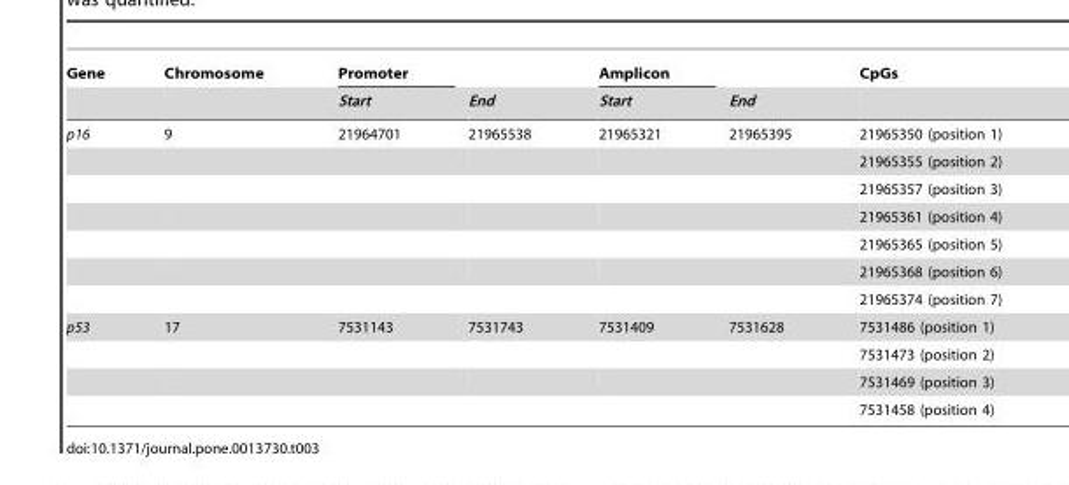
<table><thead><tr><td rowspan="2">Gene</td><td rowspan="2">Chromosome</td><td rowspan="2">Promoter Start</td><td rowspan="2">End</td><td rowspan="2">Amplicon Start</td><td rowspan="2">End</td><td rowspan="2">CpGs</td></tr><tr></tr></thead><tbody><tr><td rowspan="7">p16</td><td>9</td><td>21964701</td><td>21965538</td><td>21965321</td><td>21965395</td><td>21965350 (position 1)</td></tr><tr><td></td><td></td><td></td><td></td><td></td><td>21965355 (position 2)</td></tr><tr><td></td><td></td><td></td><td></td><td></td><td>21965357 (position 3)</td></tr><tr><td></td><td></td><td></td><td></td><td></td><td>21965361 (position 4)</td></tr><tr><td></td><td></td><td></td><td></td><td></td><td>21965365 (position 5)</td></tr><tr><td></td><td></td><td></td><td></td><td></td><td>21965368 (position 6)</td></tr><tr><td></td><td></td><td></td><td></td><td></td><td>21965374 (position 7)</td></tr><tr><td rowspan="4">p53</td><td>17</td><td>7531143</td><td>7531743</td><td>7531409</td><td>7531628</td><td>7531486 (position 1)</td></tr><tr><td></td><td></td><td></td><td></td><td></td><td>7531473 (position 2)</td></tr><tr><td></td><td></td><td></td><td></td><td></td><td>7531469 (position 3)</td></tr><tr><td></td><td></td><td></td><td></td><td></td><td>7531458 (position 4)</td></tr></tbody></table>